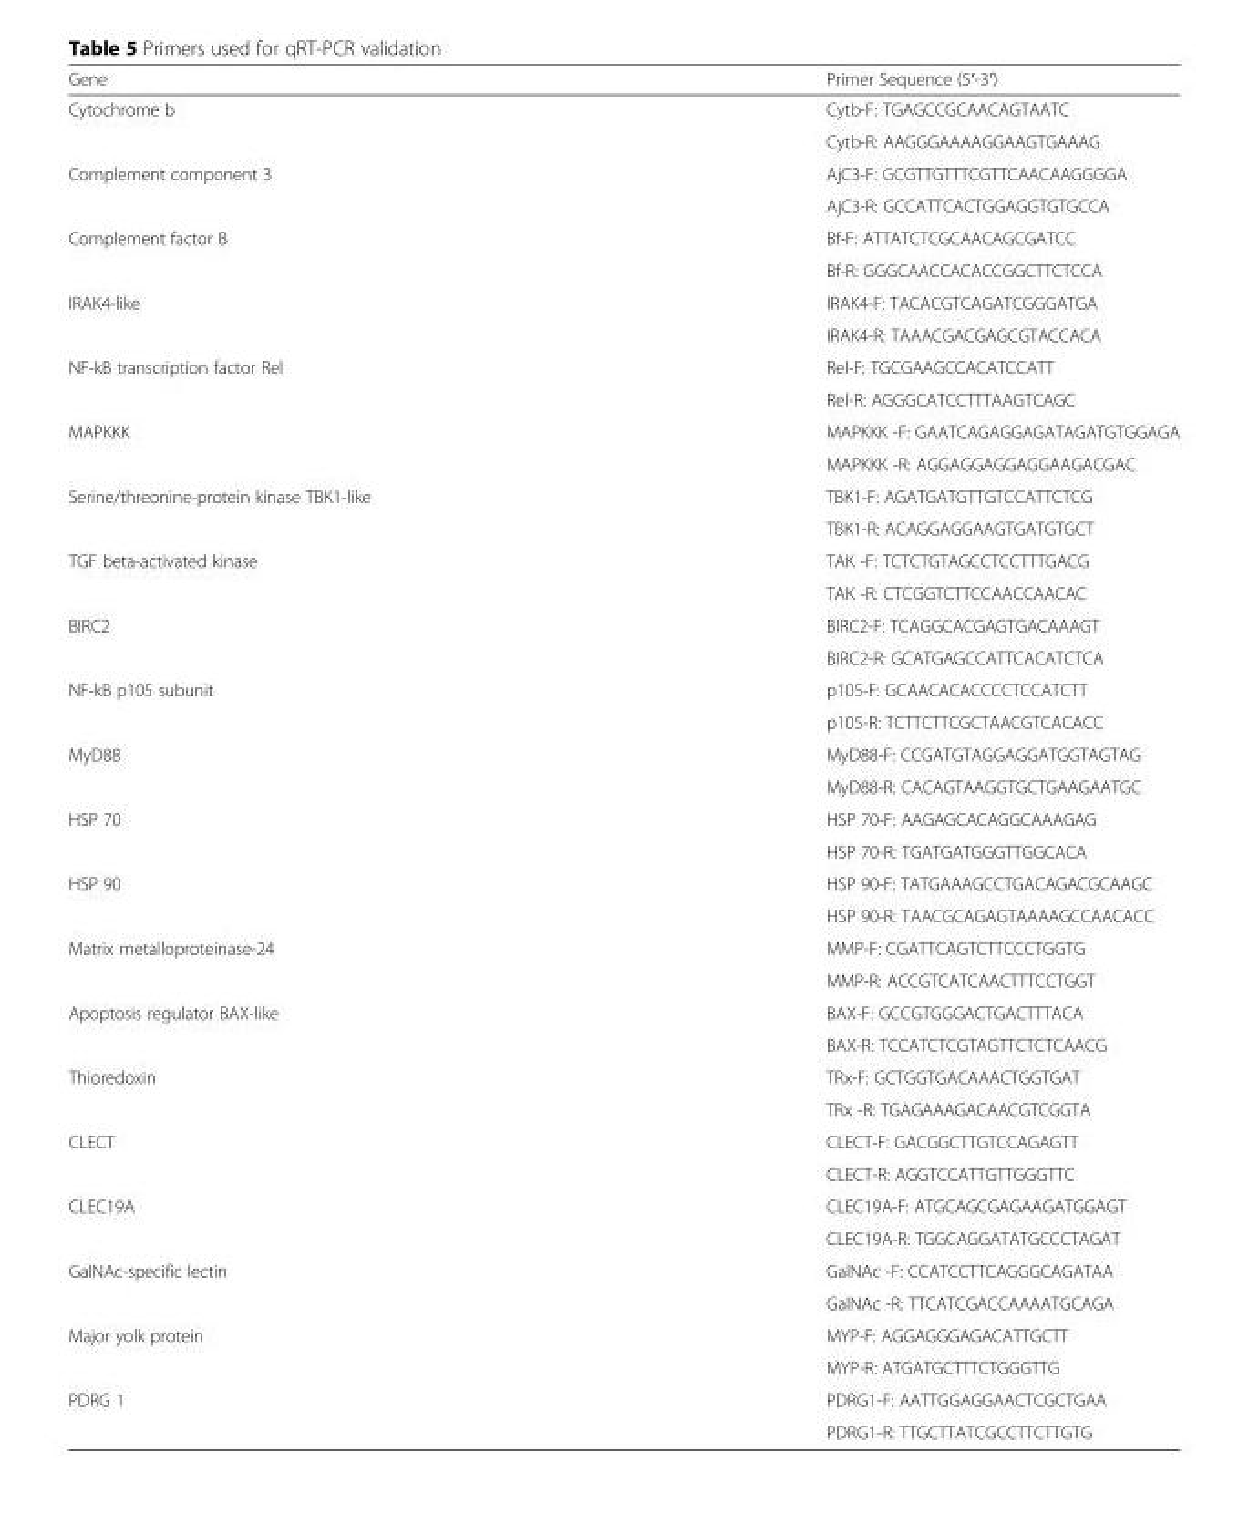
<table><thead><tr><td>Gene</td><td>Primer Sequence (5′-3′)</td></tr></thead><tbody><tr><td rowspan="2">Cytochrome b</td><td>Cytb-F: TGAGCCGCAACAGTAATC</td></tr><tr><td>Cytb-R: AAGGGAAAAGGAAGTGAAAG</td></tr><tr><td rowspan="2">Complement component 3</td><td>AjC3-F: GCGTTGTTTCGTTCAACAAGGGGA</td></tr><tr><td>AjC3-R: GCCATTCACTGGAGGTGTGCCA</td></tr><tr><td rowspan="2">Complement factor B</td><td>Bf-F: ATTATCTCGCAACAGCGATCC</td></tr><tr><td>Bf-R: GGGCAACCACACCGGCTTCTCCA</td></tr><tr><td rowspan="2">IRAK4-like</td><td>IRAK4-F: TACACGTCAGATCGGGATGA</td></tr><tr><td>IRAK4-R: TAAACGACGAGCGTACCACA</td></tr><tr><td rowspan="2">NF-kB transcription factor Rel</td><td>Rel-F: TGCGAAGCCACATCCATT</td></tr><tr><td>Rel-R: AGGGCATCCTTTAAGTCAGC</td></tr><tr><td rowspan="2">MAPKKK</td><td>MAPKKK -F: GAATCAGAGGAGATAGATGTGGAGA</td></tr><tr><td>MAPKKK -R: AGGAGGAGGAGGAAGACGAC</td></tr><tr><td rowspan="2">Serine/threonine-protein kinase TBK1-like</td><td>TBK1-F: AGATGATGTTGTCCATTCTCG</td></tr><tr><td>TBK1-R: ACAGGAGGAAGTGATGTGCT</td></tr><tr><td rowspan="2">TGF beta-activated kinase</td><td>TAK -F: TCTCTGTAGCCTCCTTTGACG</td></tr><tr><td>TAK -R: CTCGGTCTTCCAACCAACAC</td></tr><tr><td rowspan="2">BIRC2</td><td>BIRC2-F: TCAGGCACGAGTGACAAAGT</td></tr><tr><td>BIRC2-R: GCATGAGCCATTCACATCTCA</td></tr><tr><td rowspan="2">NF-kB p105 subunit</td><td>p105-F: GCAACACACCCCTCCATCTT</td></tr><tr><td>p105-R: TCTTCTTCGCTAACGTCACACC</td></tr><tr><td rowspan="2">MyD88</td><td>MyD88-F: CCGATGTAGGAGGATGGTAGTAG</td></tr><tr><td>MyD88-R: CACAGTAAGGTGCTGAAGAATGC</td></tr><tr><td rowspan="2">HSP 70</td><td>HSP 70-F: AAGAGCACAGGCAAAGAG</td></tr><tr><td>HSP 70-R: TGATGATGGGTTGGCACA</td></tr><tr><td rowspan="2">HSP 90</td><td>HSP 90-F: TATGAAAGCCTGACAGACGCAAGC</td></tr><tr><td>HSP 90-R: TAACGCAGAGTAAAAGCCAACACC</td></tr><tr><td rowspan="2">Matrix metalloproteinase-24</td><td>MMP-F: CGATTCAGTCTTCCCTGGTG</td></tr><tr><td>MMP-R: ACCGTCATCAACTTTCCTGGT</td></tr><tr><td rowspan="2">Apoptosis regulator BAX-like</td><td>BAX-F: GCCGTGGGACTGACTTTACA</td></tr><tr><td>BAX-R: TCCATCTCGTAGTTCTCTCAACG</td></tr><tr><td rowspan="2">Thioredoxin</td><td>TRx-F: GCTGGTGACAAACTGGTGAT</td></tr><tr><td>TRx -R: TGAGAAAGACAACGTCGGTA</td></tr><tr><td rowspan="2">CLECT</td><td>CLECT-F: GACGGCTTGTCCAGAGTT</td></tr><tr><td>CLECT-R: AGGTCCATTGTTGGGTTC</td></tr><tr><td rowspan="2">CLEC19A</td><td>CLEC19A-F: ATGCAGCGAGAAGATGGAGT</td></tr><tr><td>CLEC19A-R: TGGCAGGATATGCCCTAGAT</td></tr><tr><td rowspan="2">GalNAc-specific lectin</td><td>GalNAc -F: CCATCCTTCAGGGCAGATAA</td></tr><tr><td>GalNAc -R: TTCATCGACCAAAATGCAGA</td></tr><tr><td rowspan="2">Major yolk protein</td><td>MYP-F: AGGAGGGAGACATTGCTT</td></tr><tr><td>MYP-R: ATGATGCTTTCTGGGTTG</td></tr><tr><td rowspan="2">PDRG 1</td><td>PDRG1-F: AATTGGAGGAACTCGCTGAA</td></tr><tr><td>PDRG1-R: TTGCTTATCGCCTTCTTGTG</td></tr></tbody></table>